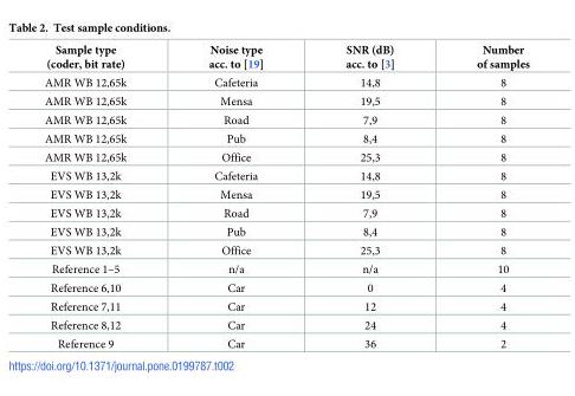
<table><thead><tr><td>Sample type (coder, bit rate)</td><td>Noise type acc. to [19]</td><td>SNR (dB) acc. to [3]</td><td>Number of samples</td></tr></thead><tbody><tr><td>AMR WB 12,65k</td><td>Cafeteria</td><td>14,8</td><td>8</td></tr><tr><td>AMR WB 12,65k</td><td>Mensa</td><td>19,5</td><td>8</td></tr><tr><td>AMR WB 12,65k</td><td>Road</td><td>7,9</td><td>8</td></tr><tr><td>AMR WB 12,65k</td><td>Pub</td><td>8,4</td><td>8</td></tr><tr><td>AMR WB 12,65k</td><td>Office</td><td>25,3</td><td>8</td></tr><tr><td>EVS WB 13,2k</td><td>Cafeteria</td><td>14,8</td><td>8</td></tr><tr><td>EVS WB 13,2k</td><td>Mensa</td><td>19,5</td><td>8</td></tr><tr><td>EVS WB 13,2k</td><td>Road</td><td>7,9</td><td>8</td></tr><tr><td>EVS WB 13,2k</td><td>Pub</td><td>8,4</td><td>8</td></tr><tr><td>EVS WB 13,2k</td><td>Office</td><td>25,3</td><td>8</td></tr><tr><td>Reference 1–5</td><td>n/a</td><td>n/a</td><td>10</td></tr><tr><td>Reference 6,10</td><td>Car</td><td>0</td><td>4</td></tr><tr><td>Reference 7,11</td><td>Car</td><td>12</td><td>4</td></tr><tr><td>Reference 8,12</td><td>Car</td><td>24</td><td>4</td></tr><tr><td>Reference 9</td><td>Car</td><td>36</td><td>2</td></tr></tbody></table>